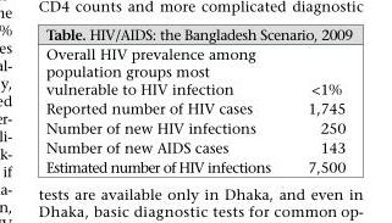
<table><tbody><tr><td>Overall HIV prevalence among population groups most vulnerable to HIV infection</td><td>&lt;1%</td></tr><tr><td>Reported number of HIV cases</td><td>1,745</td></tr><tr><td>Number of new HIV infections</td><td>250</td></tr><tr><td>Number of new AIDS cases</td><td>143</td></tr><tr><td>Estimated number of HIV infections</td><td>7,500</td></tr></tbody></table>